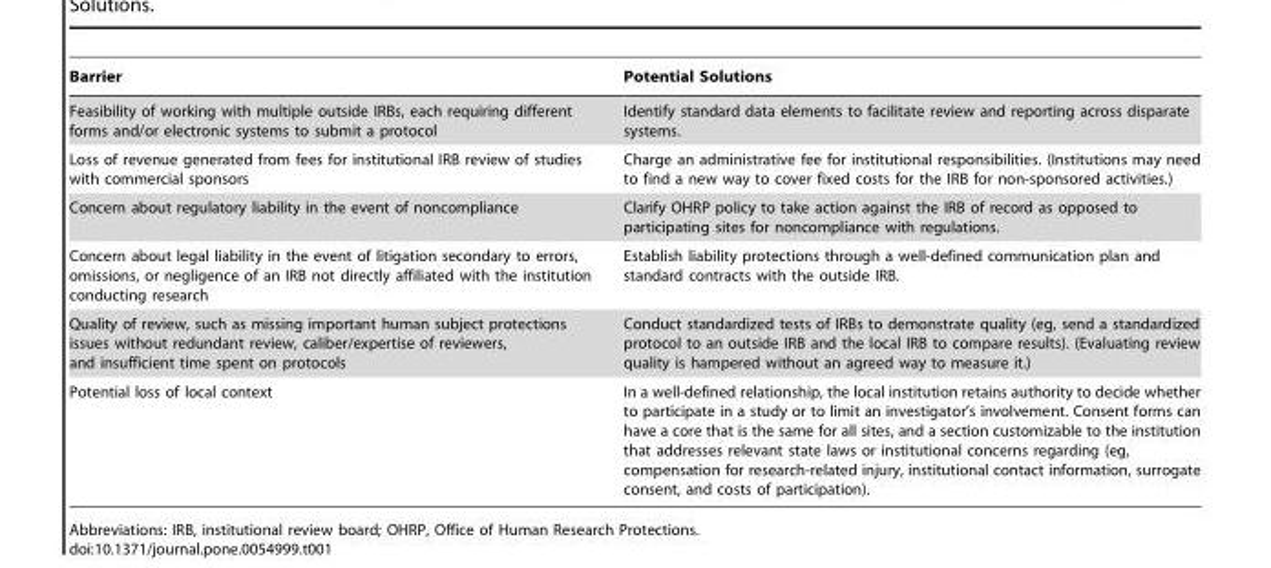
<table><thead><tr><td>Barrier</td><td>Potential Solutions</td></tr></thead><tbody><tr><td>Feasibility of working with multiple outside IRBs, each requiring different forms and/or electronic systems to submit a protocol</td><td>Identify standard data elements to facilitate review and reporting across disparate systems.</td></tr><tr><td>Loss of revenue generated from fees for institutional IRB review of studies with commercial sponsors</td><td>Charge an administrative fee for institutional responsibilities. (Institutions may need to find a new way to cover fixed costs for the IRB for non-sponsored activities.)</td></tr><tr><td>Concern about regulatory liability in the event of noncompliance</td><td>Clarify OHRP policy to take action against the IRB of record as opposed to participating sites for noncompliance with regulations.</td></tr><tr><td>Concern about legal liability in the event of litigation secondary to errors, omissions, or negligence of an IRB not directly affiliated with the institution conducting research</td><td>Establish liability protections through a well-defined communication plan and standard contracts with the outside IRB.</td></tr><tr><td>Quality of review, such as missing important human subject protections issues without redundant review, caliber/expertise of reviewers, and insufficient time spent on protocols</td><td>Conduct standardized tests of IRBs to demonstrate quality (eg, send a standardized protocol to an outside IRB and the local IRB to compare results). (Evaluating review quality is hampered without an agreed way to measure it.)</td></tr><tr><td>Potential loss of local context</td><td>In a well-defined relationship, the local institution retains authority to decide whether to participate in a study or to limit an investigator’s involvement. Consent forms can have a core that is the same for all sites, and a section customizable to the institution that addresses relevant state laws or institutional concerns regarding (eg, compensation for research-related injury, institutional contact information, surrogate consent, and costs of participation).</td></tr></tbody></table>